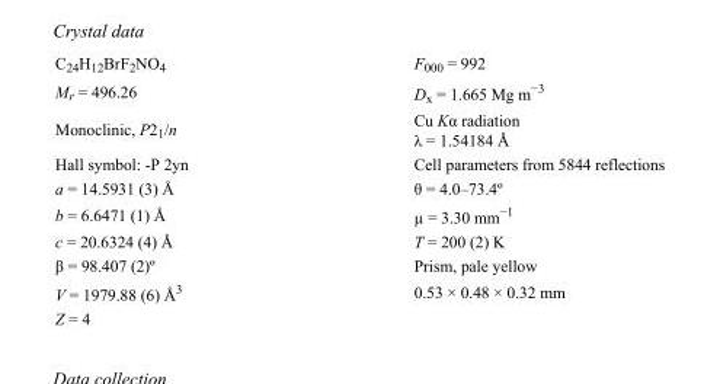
<table><tbody><tr><td>C<sub>24</sub>H<sub>12</sub>BrF<sub>2</sub>NO<sub>4</sub></td><td>F000 = 992</td></tr><tr><td>M<sub>r</sub> = 496.26</td><td>D<sub>x</sub> = 1.665 Mg m<sup>−3</sup></td></tr><tr><td>Monoclinic, P2<sub>1</sub>/n</td><td>Cu Kα radiation λ = 1.54184 Å</td></tr><tr><td>Hall symbol: -P 2yn</td><td>Cell parameters from 5844 reflections</td></tr><tr><td>a = 14.5931 (3) Å</td><td>θ = 4.0–73.4º</td></tr><tr><td>b = 6.6471 (1) Å</td><td>µ = 3.30 mm<sup>−1</sup></td></tr><tr><td>c = 20.6324 (4) Å</td><td>T = 200 (2) K</td></tr><tr><td>β = 98.407 (2)º</td><td>Prism, pale yellow</td></tr><tr><td>V = 1979.88 (6) Å<sup>3</sup></td><td>0.53 × 0.48 × 0.32 mm</td></tr><tr><td>Z = 4</td><td></td></tr></tbody></table>